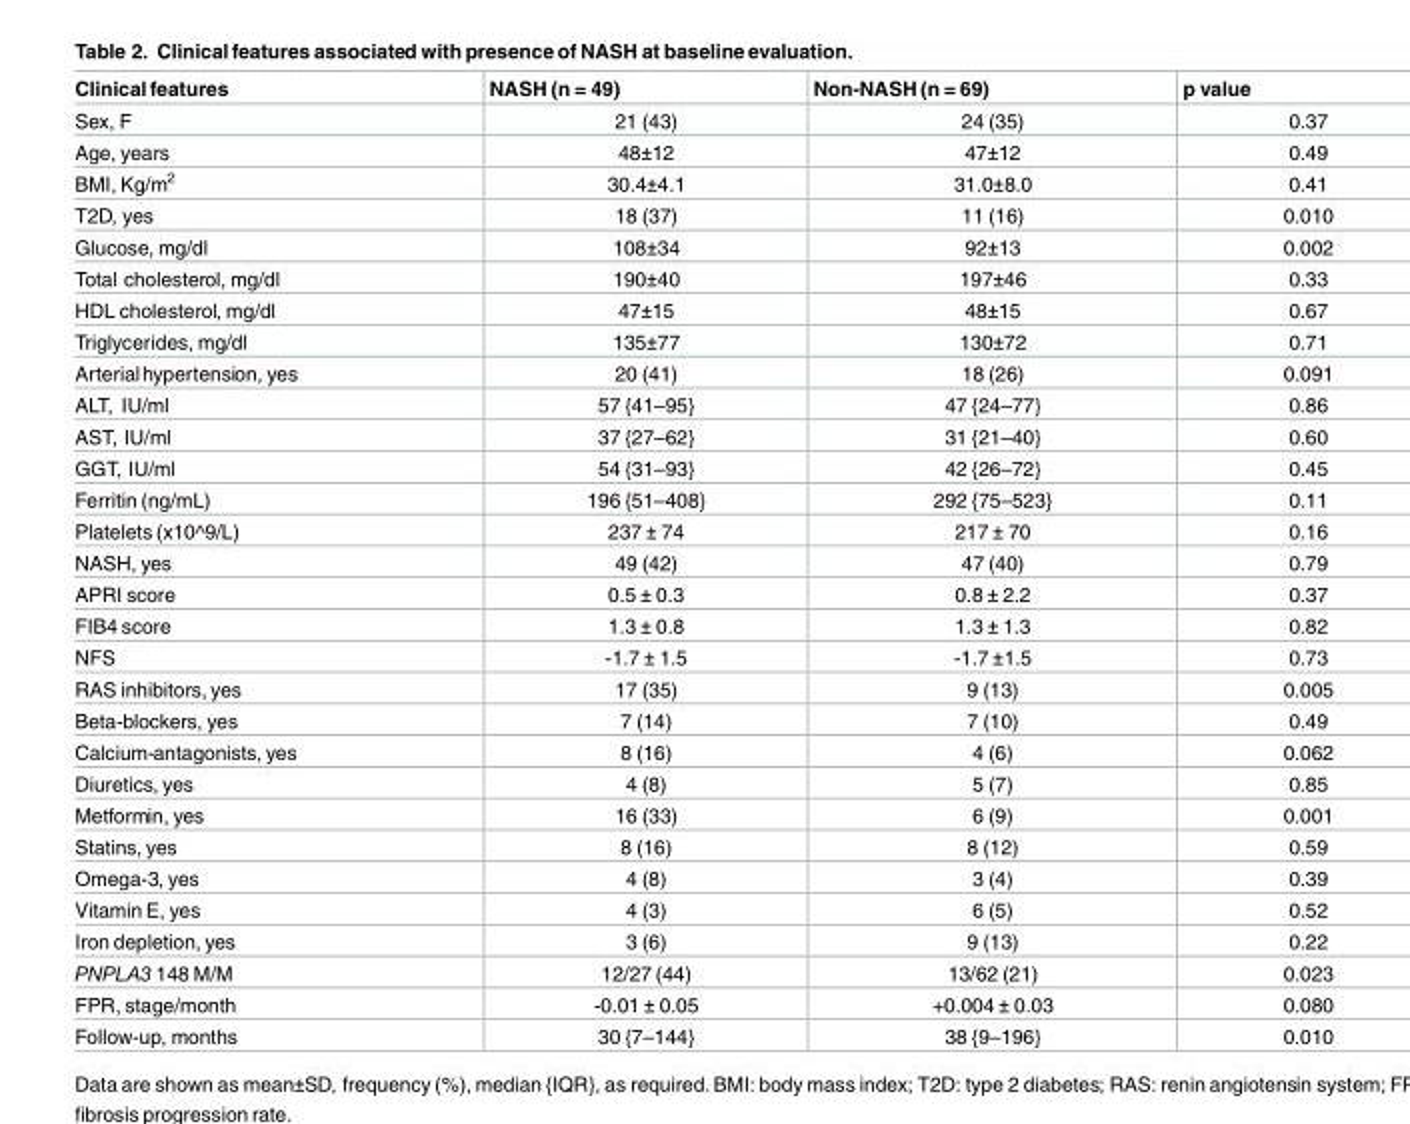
<table><thead><tr><td>Clinical features</td><td>NASH (n = 49)</td><td>Non-NASH (n = 69)</td><td>p value</td></tr></thead><tbody><tr><td>Sex, F</td><td>21 (43)</td><td>24 (35)</td><td>0.37</td></tr><tr><td>Age, years</td><td>48±12</td><td>47±12</td><td>0.49</td></tr><tr><td>BMI, Kg/m<sup>2</sup></td><td>30.4±4.1</td><td>31.0±8.0</td><td>0.41</td></tr><tr><td>T2D, yes</td><td>18 (37)</td><td>11 (16)</td><td>0.010</td></tr><tr><td>Glucose, mg/dl</td><td>108±34</td><td>92±13</td><td>0.002</td></tr><tr><td>Total cholesterol, mg/dl</td><td>190±40</td><td>197±46</td><td>0.33</td></tr><tr><td>HDL cholesterol, mg/dl</td><td>47±15</td><td>48±15</td><td>0.67</td></tr><tr><td>Triglycerides, mg/dl</td><td>135±77</td><td>130±72</td><td>0.71</td></tr><tr><td>Arterialhypertension, yes</td><td>20 (41)</td><td>18 (26)</td><td>0.091</td></tr><tr><td>ALT, IU/ml</td><td>57 {41–95}</td><td>47 {24–77}</td><td>0.86</td></tr><tr><td>AST, IU/ml</td><td>37 {27–62}</td><td>31 {21–40}</td><td>0.60</td></tr><tr><td>GGT, IU/ml</td><td>54 {31–93}</td><td>42 {26–72}</td><td>0.45</td></tr><tr><td>Ferritin (ng/mL)</td><td>196 {51–408}</td><td>292 {75–523}</td><td>0.11</td></tr><tr><td>Platelets (x10^9/L)</td><td>237 ± 74</td><td>217 ± 70</td><td>0.16</td></tr><tr><td>NASH, yes</td><td>49 (42)</td><td>47 (40)</td><td>0.79</td></tr><tr><td>APRI score</td><td>0.5 ± 0.3</td><td>0.8 ± 2.2</td><td>0.37</td></tr><tr><td>FIB4 score</td><td>1.3 ± 0.8</td><td>1.3 ± 1.3</td><td>0.82</td></tr><tr><td>NFS</td><td>-1.7 ± 1.5</td><td>-1.7 ±1.5</td><td>0.73</td></tr><tr><td>RAS inhibitors, yes</td><td>17 (35)</td><td>9 (13)</td><td>0.005</td></tr><tr><td>Beta-blockers, yes</td><td>7 (14)</td><td>7 (10)</td><td>0.49</td></tr><tr><td>Calcium-antagonists, yes</td><td>8 (16)</td><td>4 (6)</td><td>0.062</td></tr><tr><td>Diuretics, yes</td><td>4 (8)</td><td>5 (7)</td><td>0.85</td></tr><tr><td>Metformin, yes</td><td>16 (33)</td><td>6 (9)</td><td>0.001</td></tr><tr><td>Statins, yes</td><td>8 (16)</td><td>8 (12)</td><td>0.59</td></tr><tr><td>Omega-3, yes</td><td>4 (8)</td><td>3 (4)</td><td>0.39</td></tr><tr><td>Vitamin E, yes</td><td>4 (3)</td><td>6 (5)</td><td>0.52</td></tr><tr><td>Iron depletion, yes</td><td>3 (6)</td><td>9 (13)</td><td>0.22</td></tr><tr><td>PNPLA3 148 M/M</td><td>12/27 (44)</td><td>13/62 (21)</td><td>0.023</td></tr><tr><td>FPR, stage/month</td><td>-0.01 ± 0.05</td><td>+0.004 ± 0.03</td><td>0.080</td></tr><tr><td>Follow-up, months</td><td>30 {7–144}</td><td>38 {9–196}</td><td>0.010</td></tr></tbody></table>